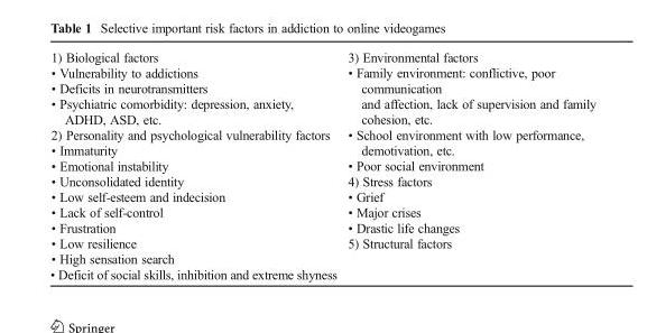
<table><tbody><tr><td>1) Biological factors • Vulnerability to addictions • Deficits in neurotransmitters • Psychiatric comorbidity: depression, anxiety, ADHD, ASD, etc. 2) Personality and psychological vulnerability factors • Immaturity • Emotional instability • Unconsolidated identity • Low self-esteem and indecision • Lack of self-control • Frustration • Low resilience • High sensation search • Deficit of social skills, inhibition and extreme shyness</td><td>3) Environmental factors • Family environment: conflictive, poor communication and affection, lack of supervision and family cohesion, etc. • School environment with low performance, demotivation, etc. • Poor social environment 4) Stress factors • Grief • Major crises • Drastic life changes 5) Structural factors</td></tr></tbody></table>